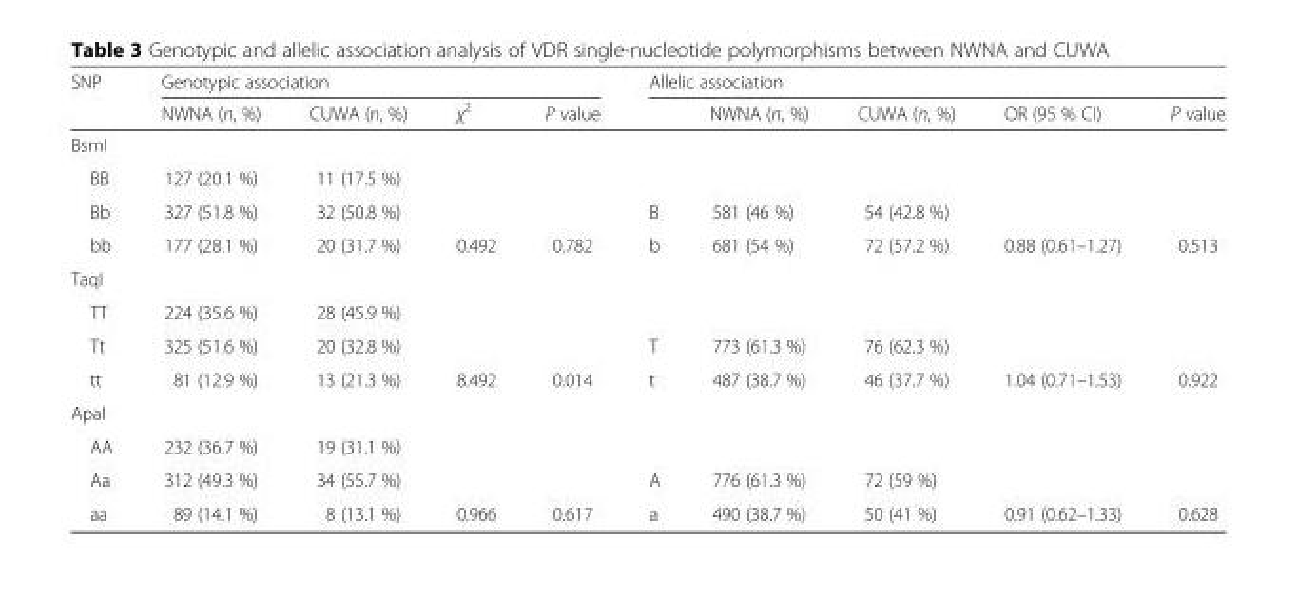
<table><thead><tr><td rowspan="2">SNP</td><td colspan="4">Genotypic association</td><td colspan="5">Allelic association</td></tr><tr><td>NWNA (n, %)</td><td>CUWA (n, %)</td><td>χ<sup>2</sup></td><td>P value</td><td></td><td>NWNA (n, %)</td><td>CUWA (n, %)</td><td>OR (95 % CI)</td><td>P value</td></tr></thead><tbody><tr><td colspan="10">BsmI</td></tr><tr><td>BB</td><td>127 (20.1 %)</td><td>11 (17.5 %)</td><td></td><td></td><td></td><td></td><td></td><td></td><td></td></tr><tr><td>Bb</td><td>327 (51.8 %)</td><td>32 (50.8 %)</td><td></td><td></td><td>B</td><td>581 (46 %)</td><td>54 (42.8 %)</td><td></td><td></td></tr><tr><td>bb</td><td>177 (28.1 %)</td><td>20 (31.7 %)</td><td>0.492</td><td>0.782</td><td>b</td><td>681 (54 %)</td><td>72 (57.2 %)</td><td>0.88 (0.61–1.27)</td><td>0.513</td></tr><tr><td colspan="10">TaqI</td></tr><tr><td>TT</td><td>224 (35.6 %)</td><td>28 (45.9 %)</td><td></td><td></td><td></td><td></td><td></td><td></td><td></td></tr><tr><td>Tt</td><td>325 (51.6 %)</td><td>20 (32.8 %)</td><td></td><td></td><td>T</td><td>773 (61.3 %)</td><td>76 (62.3 %)</td><td></td><td></td></tr><tr><td>tt</td><td>81 (12.9 %)</td><td>13 (21.3 %)</td><td>8.492</td><td>0.014</td><td>t</td><td>487 (38.7 %)</td><td>46 (37.7 %)</td><td>1.04 (0.71–1.53)</td><td>0.922</td></tr><tr><td colspan="10">ApaI</td></tr><tr><td>AA</td><td>232 (36.7 %)</td><td>19 (31.1 %)</td><td></td><td></td><td></td><td></td><td></td><td></td><td></td></tr><tr><td>Aa</td><td>312 (49.3 %)</td><td>34 (55.7 %)</td><td></td><td></td><td>A</td><td>776 (61.3 %)</td><td>72 (59 %)</td><td></td><td></td></tr><tr><td>aa</td><td>89 (14.1 %)</td><td>8 (13.1 %)</td><td>0.966</td><td>0.617</td><td>a</td><td>490 (38.7 %)</td><td>50 (41 %)</td><td>0.91 (0.62–1.33)</td><td>0.628</td></tr></tbody></table>